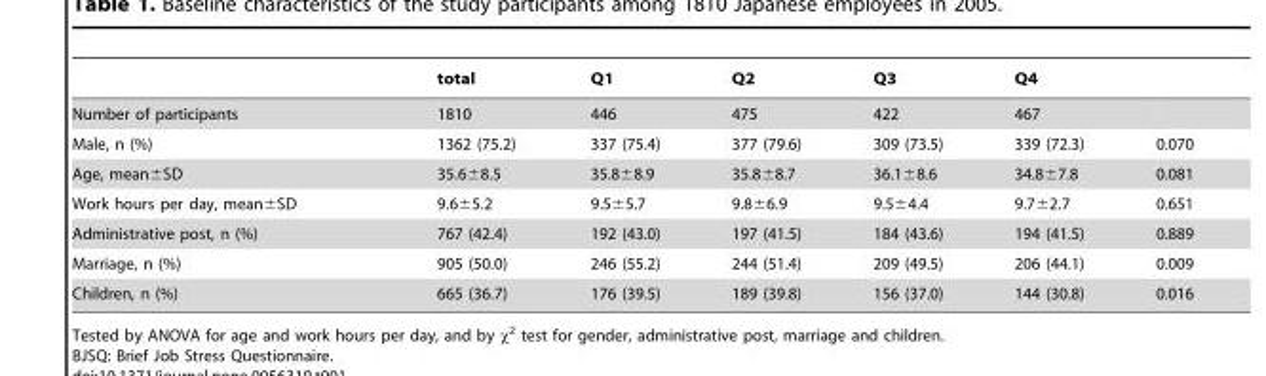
<table><thead><tr><td></td><td>total</td><td>Q1</td><td>Q2</td><td>Q3</td><td>Q4</td><td></td></tr></thead><tbody><tr><td>Number of participants</td><td>1810</td><td>446</td><td>475</td><td>422</td><td>467</td><td></td></tr><tr><td>Male, n (%)</td><td>1362 (75.2)</td><td>337 (75.4)</td><td>377 (79.6)</td><td>309 (73.5)</td><td>339 (72.3)</td><td>0.070</td></tr><tr><td>Age, mean±SD</td><td>35.6±8.5</td><td>35.8±8.9</td><td>35.8±8.7</td><td>36.1±8.6</td><td>34.8±7.8</td><td>0.081</td></tr><tr><td>Work hours per day, mean±SD</td><td>9.6±5.2</td><td>9.5±5.7</td><td>9.8±6.9</td><td>9.5±4.4</td><td>9.7±2.7</td><td>0.651</td></tr><tr><td>Administrative post, n (%)</td><td>767 (42.4)</td><td>192 (43.0)</td><td>197 (41.5)</td><td>184 (43.6)</td><td>194 (41.5)</td><td>0.889</td></tr><tr><td>Marriage, n (%)</td><td>905 (50.0)</td><td>246 (55.2)</td><td>244 (51.4)</td><td>209 (49.5)</td><td>206 (44.1)</td><td>0.009</td></tr><tr><td>Children, n (%)</td><td>665 (36.7)</td><td>176 (39.5)</td><td>189 (39.8)</td><td>156 (37.0)</td><td>144 (30.8)</td><td>0.016</td></tr></tbody></table>